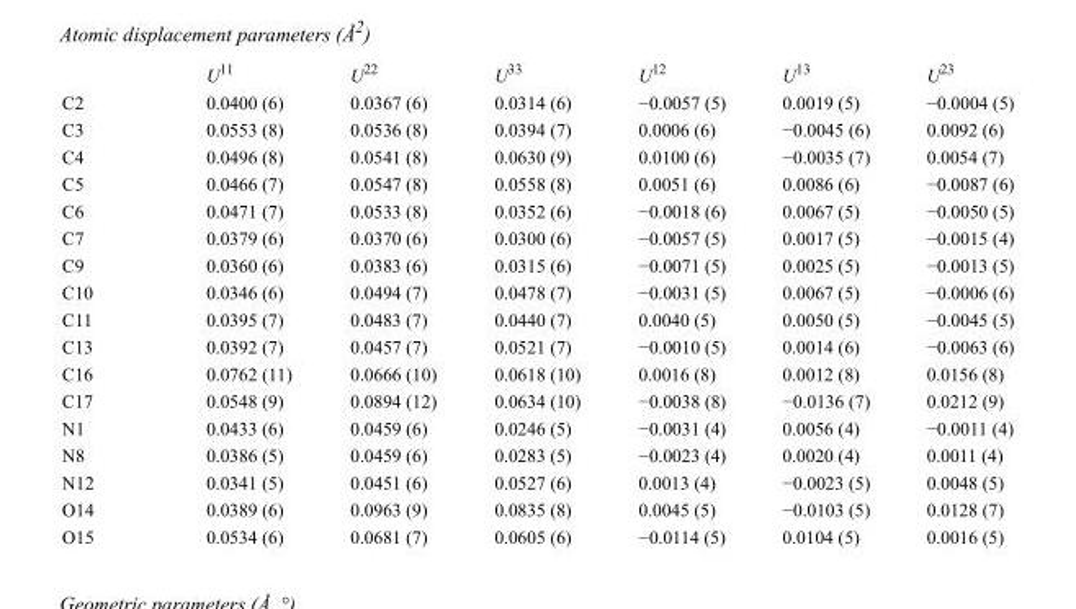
<table><thead><tr><td></td><td>U<sup>11</sup></td><td>U<sup>22</sup></td><td>U<sup>33</sup></td><td>U<sup>12</sup></td><td>U<sup>13</sup></td><td>U<sup>23</sup></td></tr></thead><tbody><tr><td>C2</td><td>0.0400 (6)</td><td>0.0367 (6)</td><td>0.0314 (6)</td><td>−0.0057 (5)</td><td>0.0019 (5)</td><td>−0.0004 (5)</td></tr><tr><td>C3</td><td>0.0553 (8)</td><td>0.0536 (8)</td><td>0.0394 (7)</td><td>0.0006 (6)</td><td>−0.0045 (6)</td><td>0.0092 (6)</td></tr><tr><td>C4</td><td>0.0496 (8)</td><td>0.0541 (8)</td><td>0.0630 (9)</td><td>0.0100 (6)</td><td>−0.0035 (7)</td><td>0.0054 (7)</td></tr><tr><td>C5</td><td>0.0466 (7)</td><td>0.0547 (8)</td><td>0.0558 (8)</td><td>0.0051 (6)</td><td>0.0086 (6)</td><td>−0.0087 (6)</td></tr><tr><td>C6</td><td>0.0471 (7)</td><td>0.0533 (8)</td><td>0.0352 (6)</td><td>−0.0018 (6)</td><td>0.0067 (5)</td><td>−0.0050 (5)</td></tr><tr><td>C7</td><td>0.0379 (6)</td><td>0.0370 (6)</td><td>0.0300 (6)</td><td>−0.0057 (5)</td><td>0.0017 (5)</td><td>−0.0015 (4)</td></tr><tr><td>C9</td><td>0.0360 (6)</td><td>0.0383 (6)</td><td>0.0315 (6)</td><td>−0.0071 (5)</td><td>0.0025 (5)</td><td>−0.0013 (5)</td></tr><tr><td>C10</td><td>0.0346 (6)</td><td>0.0494 (7)</td><td>0.0478 (7)</td><td>−0.0031 (5)</td><td>0.0067 (5)</td><td>−0.0006 (6)</td></tr><tr><td>C11</td><td>0.0395 (7)</td><td>0.0483 (7)</td><td>0.0440 (7)</td><td>0.0040 (5)</td><td>0.0050 (5)</td><td>−0.0045 (5)</td></tr><tr><td>C13</td><td>0.0392 (7)</td><td>0.0457 (7)</td><td>0.0521 (7)</td><td>−0.0010 (5)</td><td>0.0014 (6)</td><td>−0.0063 (6)</td></tr><tr><td>C16</td><td>0.0762 (11)</td><td>0.0666 (10)</td><td>0.0618 (10)</td><td>0.0016 (8)</td><td>0.0012 (8)</td><td>0.0156 (8)</td></tr><tr><td>C17</td><td>0.0548 (9)</td><td>0.0894 (12)</td><td>0.0634 (10)</td><td>−0.0038 (8)</td><td>−0.0136 (7)</td><td>0.0212 (9)</td></tr><tr><td>N1</td><td>0.0433 (6)</td><td>0.0459 (6)</td><td>0.0246 (5)</td><td>−0.0031 (4)</td><td>0.0056 (4)</td><td>−0.0011 (4)</td></tr><tr><td>N8</td><td>0.0386 (5)</td><td>0.0459 (6)</td><td>0.0283 (5)</td><td>−0.0023 (4)</td><td>0.0020 (4)</td><td>0.0011 (4)</td></tr><tr><td>N12</td><td>0.0341 (5)</td><td>0.0451 (6)</td><td>0.0527 (6)</td><td>0.0013 (4)</td><td>−0.0023 (5)</td><td>0.0048 (5)</td></tr><tr><td>O14</td><td>0.0389 (6)</td><td>0.0963 (9)</td><td>0.0835 (8)</td><td>0.0045 (5)</td><td>−0.0103 (5)</td><td>0.0128 (7)</td></tr><tr><td>O15</td><td>0.0534 (6)</td><td>0.0681 (7)</td><td>0.0605 (6)</td><td>−0.0114 (5)</td><td>0.0104 (5)</td><td>0.0016 (5)</td></tr></tbody></table>